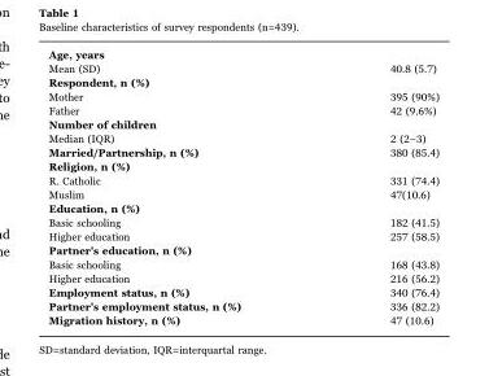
<table><tbody><tr><td colspan="2">Age, years</td></tr><tr><td>Mean (SD)</td><td>40.8 (5.7)</td></tr><tr><td colspan="2">Respondent, n (%)</td></tr><tr><td>Mother</td><td>395 (90%)</td></tr><tr><td>Father</td><td>42 (9.6%)</td></tr><tr><td colspan="2">Number of children</td></tr><tr><td>Median (IQR)</td><td>2 (2–3)</td></tr><tr><td>Married/Partnership, n (%)</td><td>380 (85.4)</td></tr><tr><td colspan="2">Religion, n (%)</td></tr><tr><td>R. Catholic</td><td>331 (74.4)</td></tr><tr><td>Muslim</td><td>47(10.6)</td></tr><tr><td colspan="2">Education, n (%)</td></tr><tr><td>Basic schooling</td><td>182 (41.5)</td></tr><tr><td>Higher education</td><td>257 (58.5)</td></tr><tr><td colspan="2">Partner&#x27;s education, n (%)</td></tr><tr><td>Basic schooling</td><td>168 (43.8)</td></tr><tr><td>Higher education</td><td>216 (56.2)</td></tr><tr><td>Employment status, n (%)</td><td>340 (76.4)</td></tr><tr><td>Partner&#x27;s employment status, n (%)</td><td>336 (82.2)</td></tr><tr><td>Migration history, n (%)</td><td>47 (10.6)</td></tr></tbody></table>